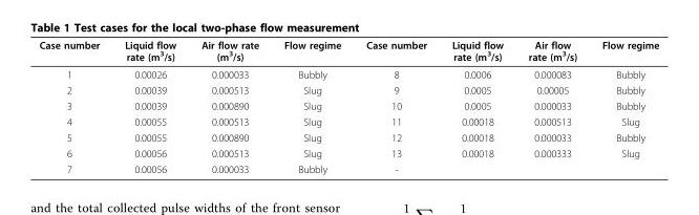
<table><thead><tr><td>Case number</td><td>Liquid flow rate (m<sup>3</sup>/s)</td><td>Air flow rate (m<sup>3</sup>/s)</td><td>Flow regime</td><td>Case number</td><td>Liquid flow rate (m<sup>3</sup>/s)</td><td>Air flow rate (m<sup>3</sup>/s)</td><td>Flow regime</td></tr></thead><tbody><tr><td>1</td><td>0.00026</td><td>0.000033</td><td>Bubbly</td><td>8</td><td>0.0006</td><td>0.000083</td><td>Bubbly</td></tr><tr><td>2</td><td>0.00039</td><td>0.000513</td><td>Slug</td><td>9</td><td>0.0005</td><td>0.00005</td><td>Bubbly</td></tr><tr><td>3</td><td>0.00039</td><td>0.000890</td><td>Slug</td><td>10</td><td>0.0005</td><td>0.000033</td><td>Bubbly</td></tr><tr><td>4</td><td>0.00055</td><td>0.000513</td><td>Slug</td><td>11</td><td>0.00018</td><td>0.000513</td><td>Slug</td></tr><tr><td>5</td><td>0.00055</td><td>0.000890</td><td>Slug</td><td>12</td><td>0.00018</td><td>0.000033</td><td>Bubbly</td></tr><tr><td>6</td><td>0.00056</td><td>0.000513</td><td>Slug</td><td>13</td><td>0.00018</td><td>0.000333</td><td>Slug</td></tr><tr><td>7</td><td>0.00056</td><td>0.000033</td><td>Bubbly</td><td>-</td><td></td><td></td><td></td></tr></tbody></table>